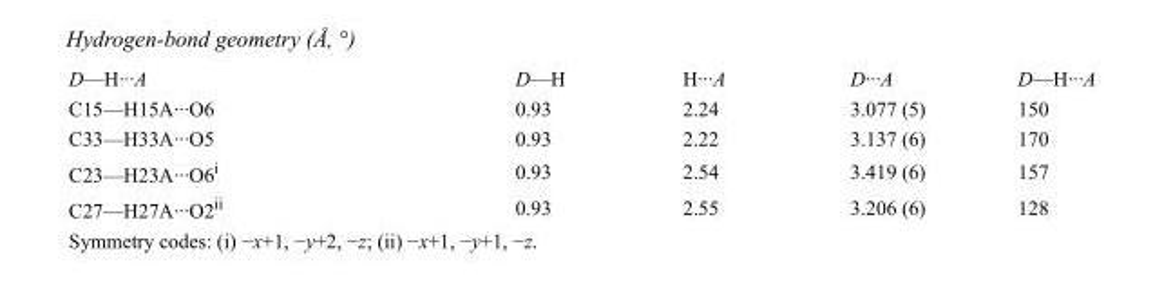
<table><tbody><tr><td>D—H···A</td><td>D—H</td><td>H···A</td><td>D···A</td><td>D—H···A</td></tr><tr><td>C15—H15A···O6</td><td>0.93</td><td>2.24</td><td>3.077 (5)</td><td>150</td></tr><tr><td>C33—H33A···O5</td><td>0.93</td><td>2.22</td><td>3.137 (6)</td><td>170</td></tr><tr><td>C23—H23A···O6<sup>i</sup></td><td>0.93</td><td>2.54</td><td>3.419 (6)</td><td>157</td></tr><tr><td>C27—H27A···O2<sup>ii</sup></td><td>0.93</td><td>2.55</td><td>3.206 (6)</td><td>128</td></tr></tbody></table>